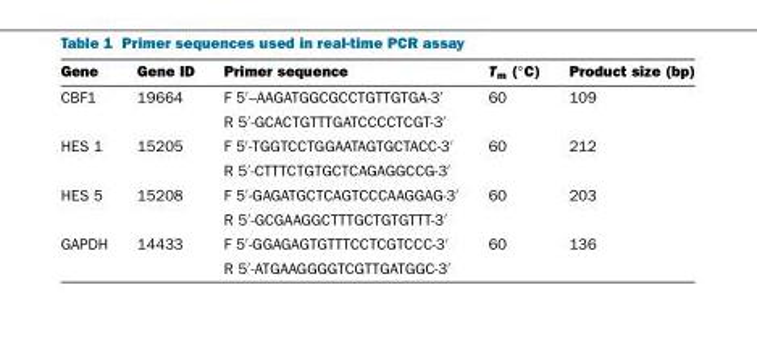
<table><thead><tr><td>Gene</td><td>Gene ID</td><td>Primer sequence</td><td>Tm (◦C)</td><td>Product size (bp)</td></tr></thead><tbody><tr><td rowspan="2">CBF1</td><td>19664</td><td>F 5′–AAGATGGCGCCTGTTGTGA-3′</td><td>60</td><td>109</td></tr><tr><td></td><td>R 5′-GCACTGTTTGATCCCCTCGT-3′</td><td></td><td></td></tr><tr><td rowspan="2">HES 1</td><td>15205</td><td>F 5′-TGGTCCTGGAATAGTGCTACC-3′</td><td>60</td><td>212</td></tr><tr><td></td><td>R 5′-CTTTCTGTGCTCAGAGGCCG-3′</td><td></td><td></td></tr><tr><td rowspan="2">HES 5</td><td>15208</td><td>F 5′-GAGATGCTCAGTCCCAAGGAG-3′</td><td>60</td><td>203</td></tr><tr><td></td><td>R 5′-GCGAAGGCTTTGCTGTGTTT-3′</td><td></td><td></td></tr><tr><td rowspan="2">GAPDH</td><td>14433</td><td>F 5′-GGAGAGTGTTTCCTCGTCCC-3′</td><td>60</td><td>136</td></tr><tr><td></td><td>R 5′-ATGAAGGGGTCGTTGATGGC-3′</td><td></td><td></td></tr></tbody></table>